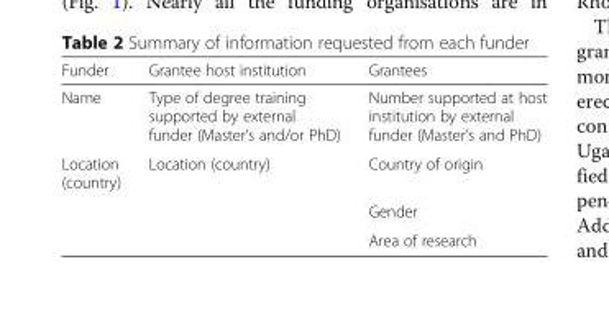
<table><thead><tr><td>Funder</td><td>Grantee host institution</td><td>Grantees</td></tr></thead><tbody><tr><td>Name</td><td>Type of degree training supported by external funder (Master’s and/or PhD)</td><td>Number supported at host institution by external funder (Master’s and PhD)</td></tr><tr><td rowspan="3">Location (country)</td><td>Location (country)</td><td>Country of origin</td></tr><tr><td></td><td>Gender</td></tr><tr><td></td><td>Area of research</td></tr></tbody></table>